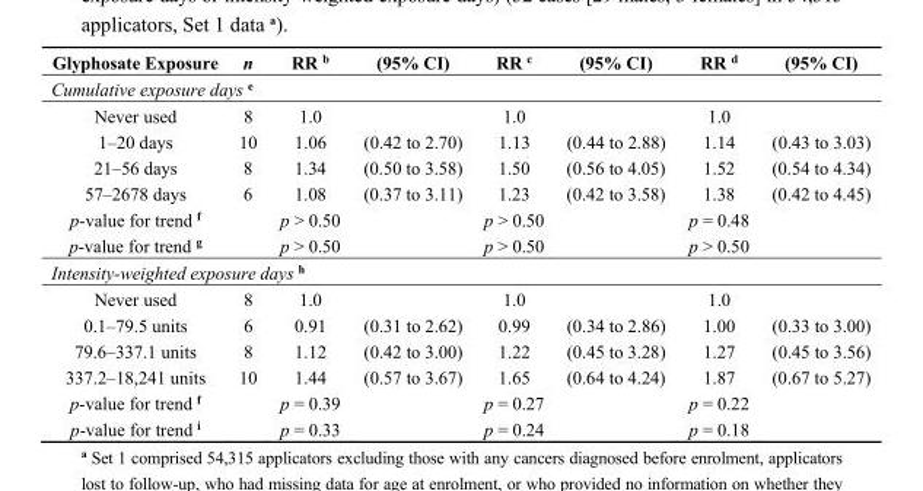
<table><thead><tr><td>Glyphosate Exposure</td><td>n</td><td>RR <sup>b</sup></td><td>(95% CI)</td><td>RR <sup>c</sup></td><td>(95% CI)</td><td>RR <sup>d</sup></td><td>(95% CI)</td></tr></thead><tbody><tr><td colspan="8">Cumulative exposure days <sup>e</sup></td></tr><tr><td>Never used</td><td>8</td><td>1.0</td><td></td><td>1.0</td><td></td><td>1.0</td><td></td></tr><tr><td>1–20 days</td><td>10</td><td>1.06</td><td>(0.42 to 2.70)</td><td>1.13</td><td>(0.44 to 2.88)</td><td>1.14</td><td>(0.43 to 3.03)</td></tr><tr><td>21–56 days</td><td>8</td><td>1.34</td><td>(0.50 to 3.58)</td><td>1.50</td><td>(0.56 to 4.05)</td><td>1.52</td><td>(0.54 to 4.34)</td></tr><tr><td>57–2678 days</td><td>6</td><td>1.08</td><td>(0.37 to 3.11)</td><td>1.23</td><td>(0.42 to 3.58)</td><td>1.38</td><td>(0.42 to 4.45)</td></tr><tr><td>p-value for trend <sup>f</sup></td><td></td><td>p &gt; 0.50</td><td></td><td>p &gt; 0.50</td><td></td><td>p = 0.48</td><td></td></tr><tr><td>p-value for trend <sup>g</sup></td><td></td><td>p &gt; 0.50</td><td></td><td>p &gt; 0.50</td><td></td><td>p &gt; 0.50</td><td></td></tr><tr><td colspan="8">Intensity-weighted exposure days <sup>h</sup></td></tr><tr><td>Never used</td><td>8</td><td>1.0</td><td></td><td>1.0</td><td></td><td>1.0</td><td></td></tr><tr><td>0.1–79.5 units</td><td>6</td><td>0.91</td><td>(0.31 to 2.62)</td><td>0.99</td><td>(0.34 to 2.86)</td><td>1.00</td><td>(0.33 to 3.00)</td></tr><tr><td>79.6–337.1 units</td><td>8</td><td>1.12</td><td>(0.42 to 3.00)</td><td>1.22</td><td>(0.45 to 3.28)</td><td>1.27</td><td>(0.45 to 3.56)</td></tr><tr><td>337.2–18,241 units</td><td>10</td><td>1.44</td><td>(0.57 to 3.67)</td><td>1.65</td><td>(0.64 to 4.24)</td><td>1.87</td><td>(0.67 to 5.27)</td></tr><tr><td>p-value for trend <sup>f</sup></td><td></td><td>p = 0.39</td><td></td><td>p = 0.27</td><td></td><td>p = 0.22</td><td></td></tr><tr><td>p-value for trend <sup>i</sup></td><td></td><td>p = 0.33</td><td></td><td>p = 0.24</td><td></td><td>p = 0.18</td><td></td></tr></tbody></table>